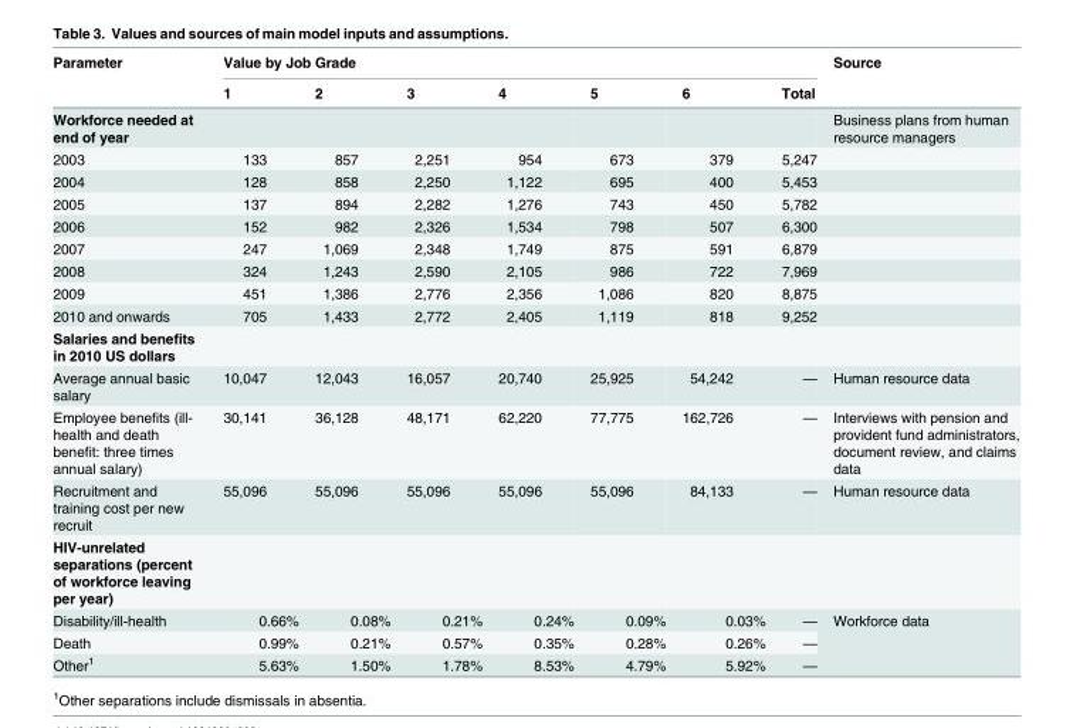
<table><thead><tr><td rowspan="2">Parameter</td><td colspan="7">Value by Job Grade</td><td rowspan="2">Source</td></tr><tr><td>1</td><td>2</td><td>3</td><td>4</td><td>5</td><td>6</td><td>Total</td></tr></thead><tbody><tr><td>Workforce needed at end of year</td><td></td><td></td><td></td><td></td><td></td><td></td><td></td><td>Business plans from human resource managers</td></tr><tr><td>2003</td><td>133</td><td>857</td><td>2,251</td><td>954</td><td>673</td><td>379</td><td>5,247</td><td></td></tr><tr><td>2004</td><td>128</td><td>858</td><td>2,250</td><td>1,122</td><td>695</td><td>400</td><td>5,453</td><td></td></tr><tr><td>2005</td><td>137</td><td>894</td><td>2,282</td><td>1,276</td><td>743</td><td>450</td><td>5,782</td><td></td></tr><tr><td>2006</td><td>152</td><td>982</td><td>2,326</td><td>1,534</td><td>798</td><td>507</td><td>6,300</td><td></td></tr><tr><td>2007</td><td>247</td><td>1,069</td><td>2,348</td><td>1,749</td><td>875</td><td>591</td><td>6,879</td><td></td></tr><tr><td>2008</td><td>324</td><td>1,243</td><td>2,590</td><td>2,105</td><td>986</td><td>722</td><td>7,969</td><td></td></tr><tr><td>2009</td><td>451</td><td>1,386</td><td>2,776</td><td>2,356</td><td>1,086</td><td>820</td><td>8,875</td><td></td></tr><tr><td>2010 and onwards</td><td>705</td><td>1,433</td><td>2,772</td><td>2,405</td><td>1,119</td><td>818</td><td>9,252</td><td></td></tr><tr><td colspan="9">Salaries and benefits in 2010 US dollars</td></tr><tr><td>Average annual basic salary</td><td>10,047</td><td>12,043</td><td>16,057</td><td>20,740</td><td>25,925</td><td>54,242</td><td>—</td><td>Human resource data</td></tr><tr><td>Employee benefits (ill- health and death benefit: three times annual salary)</td><td>30,141</td><td>36,128</td><td>48,171</td><td>62,220</td><td>77,775</td><td>162,726</td><td>—</td><td>Interviews with pension and provident fund administrators, document review, and claims data</td></tr><tr><td>Recruitment and training cost per new recruit</td><td>55,096</td><td>55,096</td><td>55,096</td><td>55,096</td><td>55,096</td><td>84,133</td><td>—</td><td>Human resource data</td></tr><tr><td colspan="9">HIV-unrelated separations (percent of workforce leaving per year)</td></tr><tr><td>Disability/ill-health</td><td>0.66%</td><td>0.08%</td><td>0.21%</td><td>0.24%</td><td>0.09%</td><td>0.03%</td><td>—</td><td rowspan="3">Workforce data</td></tr><tr><td>Death</td><td>0.99%</td><td>0.21%</td><td>0.57%</td><td>0.35%</td><td>0.28%</td><td>0.26%</td><td>—</td></tr><tr><td>Other<sup>1</sup></td><td>5.63%</td><td>1.50%</td><td>1.78%</td><td>8.53%</td><td>4.79%</td><td>5.92%</td><td>—</td></tr></tbody></table>